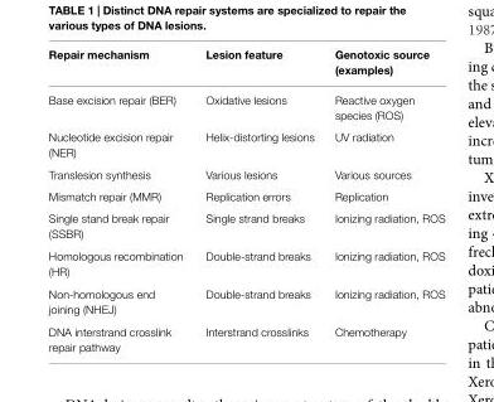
<table><thead><tr><td>Repair mechanism</td><td>Lesion feature</td><td>Genotoxic source (examples)</td></tr></thead><tbody><tr><td>Base excision repair (BER)</td><td>Oxidative lesions</td><td>Reactive oxygen species (ROS)</td></tr><tr><td>Nucleotide excision repair (NER)</td><td>Helix-distorting lesions</td><td>UV radiation</td></tr><tr><td>Translesion synthesis</td><td>Various lesions</td><td>Various sources</td></tr><tr><td>Mismatch repair (MMR)</td><td>Replication errors</td><td>Replication</td></tr><tr><td>Single stand break repair (SSBR)</td><td>Single strand breaks</td><td>Ionizing radiation, ROS</td></tr><tr><td>Homologous recombination (HR)</td><td>Double-strand breaks</td><td>Ionizing radiation, ROS</td></tr><tr><td>Non-homologous end joining (NHEJ)</td><td>Double-strand breaks</td><td>Ionizing radiation, ROS</td></tr><tr><td>DNA interstrand crosslink repair pathway</td><td>Interstrand crosslinks</td><td>Chemotherapy</td></tr></tbody></table>